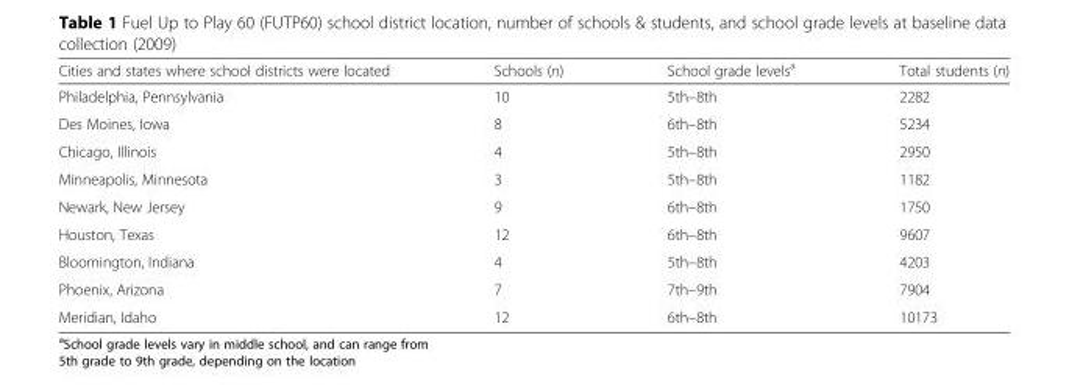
<table><thead><tr><td>Cities and states where school districts were located</td><td>Schools (n)</td><td>School grade levels<sup>a</sup></td><td>Total students (n)</td></tr></thead><tbody><tr><td>Philadelphia, Pennsylvania</td><td>10</td><td>5th–8th</td><td>2282</td></tr><tr><td>Des Moines, Iowa</td><td>8</td><td>6th–8th</td><td>5234</td></tr><tr><td>Chicago, Illinois</td><td>4</td><td>5th–8th</td><td>2950</td></tr><tr><td>Minneapolis, Minnesota</td><td>3</td><td>5th–8th</td><td>1182</td></tr><tr><td>Newark, New Jersey</td><td>9</td><td>6th–8th</td><td>1750</td></tr><tr><td>Houston, Texas</td><td>12</td><td>6th–8th</td><td>9607</td></tr><tr><td>Bloomington, Indiana</td><td>4</td><td>5th–8th</td><td>4203</td></tr><tr><td>Phoenix, Arizona</td><td>7</td><td>7th–9th</td><td>7904</td></tr><tr><td>Meridian, Idaho</td><td>12</td><td>6th–8th</td><td>10173</td></tr></tbody></table>